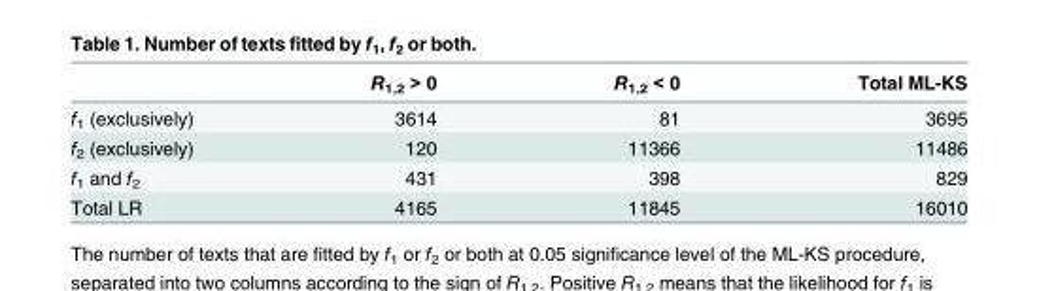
<table><thead><tr><td></td><td>R<sub>1,2</sub> &gt; 0</td><td>R<sub>1,2</sub> &lt; 0</td><td>Total ML-KS</td></tr></thead><tbody><tr><td>f<sub>1</sub> (exclusively)</td><td>3614</td><td>81</td><td>3695</td></tr><tr><td>f<sub>2</sub> (exclusively)</td><td>120</td><td>11366</td><td>11486</td></tr><tr><td>f<sub>1</sub> and f<sub>2</sub></td><td>431</td><td>398</td><td>829</td></tr><tr><td>Total LR</td><td>4165</td><td>11845</td><td>16010</td></tr></tbody></table>